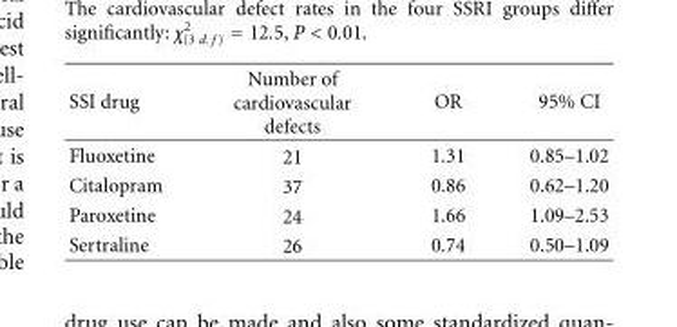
<table><thead><tr><td>SSI drug</td><td>Number of cardiovascular defects</td><td>OR</td><td>95% CI</td></tr></thead><tbody><tr><td>Fluoxetine</td><td>21</td><td>1.31</td><td>0.85–1.02</td></tr><tr><td>Citalopram</td><td>37</td><td>0.86</td><td>0.62–1.20</td></tr><tr><td>Paroxetine</td><td>24</td><td>1.66</td><td>1.09–2.53</td></tr><tr><td>Sertraline</td><td>26</td><td>0.74</td><td>0.50–1.09</td></tr></tbody></table>